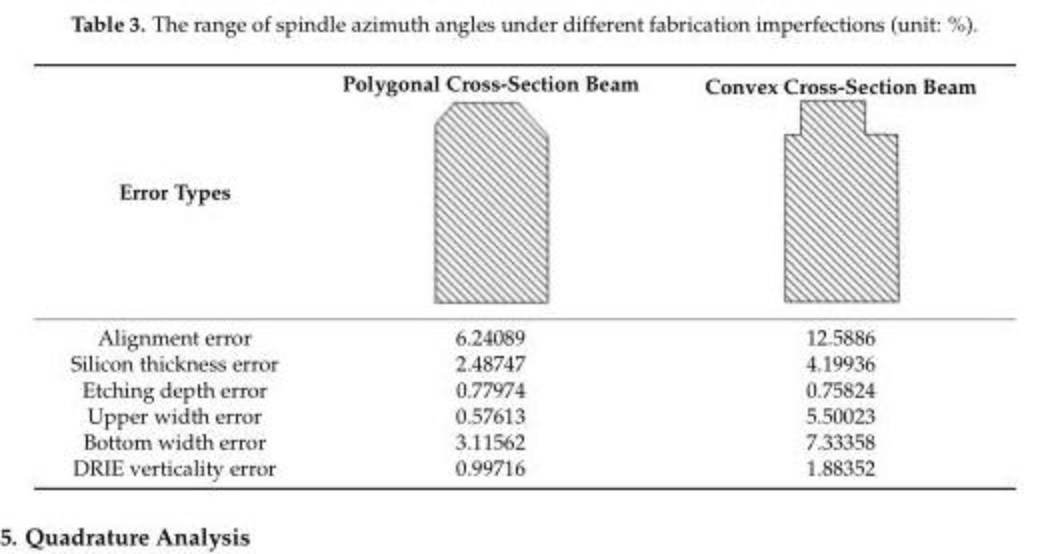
<table><thead><tr><td>Error Types</td><td>Polygonal Cross-Section Beam</td><td>Convex Cross-Section Beam</td></tr></thead><tbody><tr><td>Alignment error</td><td>6.24089</td><td>12.5886</td></tr><tr><td>Silicon thickness error</td><td>2.48747</td><td>4.19936</td></tr><tr><td>Etching depth error</td><td>0.77974</td><td>0.75824</td></tr><tr><td>Upper width error</td><td>0.57613</td><td>5.50023</td></tr><tr><td>Bottom width error</td><td>3.11562</td><td>7.33358</td></tr><tr><td>DRIE verticality error</td><td>0.99716</td><td>1.88352</td></tr></tbody></table>